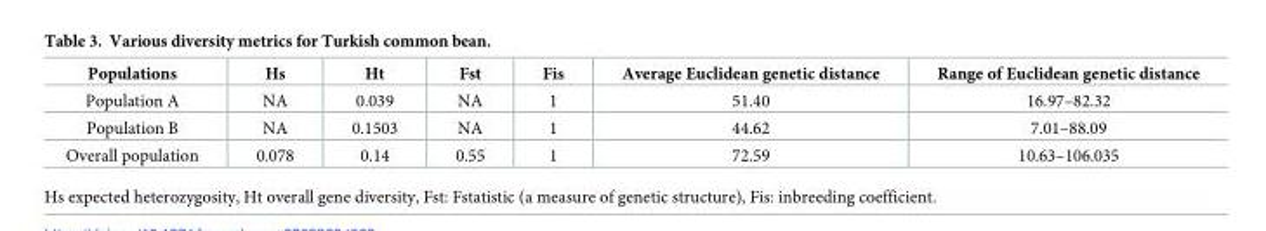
<table><thead><tr><td>Populations</td><td>Hs</td><td>Ht</td><td>Fst</td><td>Fis</td><td>Average Euclidean genetic distance</td><td>Range of Euclidean genetic distance</td></tr></thead><tbody><tr><td>Population A</td><td>NA</td><td>0.039</td><td>NA</td><td>1</td><td>51.40</td><td>16.97–82.32</td></tr><tr><td>Population B</td><td>NA</td><td>0.1503</td><td>NA</td><td>1</td><td>44.62</td><td>7.01–88.09</td></tr><tr><td>Overall population</td><td>0.078</td><td>0.14</td><td>0.55</td><td>1</td><td>72.59</td><td>10.63–106.035</td></tr></tbody></table>